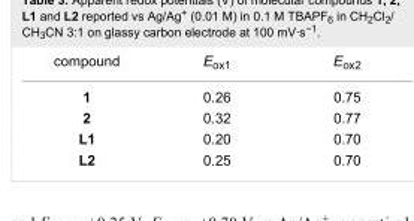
<table><tbody><tr><td>compound</td><td>E<sub>ox1</sub></td><td>E<sub>ox2</sub></td></tr><tr><td>1</td><td>0.26</td><td>0.75</td></tr><tr><td>2</td><td>0.32</td><td>0.77</td></tr><tr><td>L1</td><td>0.20</td><td>0.70</td></tr><tr><td>L2</td><td>0.25</td><td>0.70</td></tr></tbody></table>